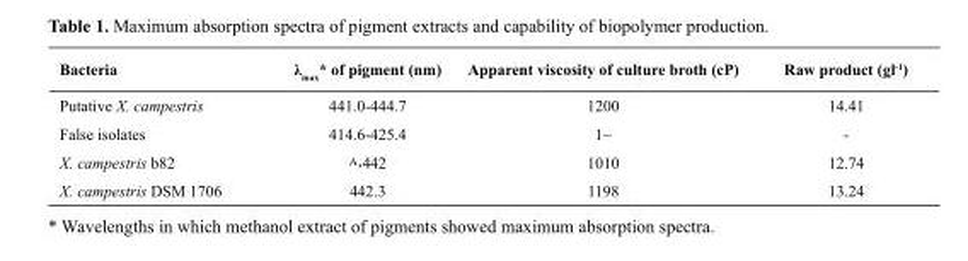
<table><thead><tr><td>Bacteria</td><td>λ<sub>max</sub>* of pigment (nm)</td><td>Apparent viscosity of culture broth (cP)</td><td>Raw product (gl<sup>-</sup>1)</td></tr></thead><tbody><tr><td>Putative X. campestris</td><td>441.0-444.7</td><td>1200</td><td>14.41</td></tr><tr><td>False isolates</td><td>414.6-425.4</td><td>1~</td><td>-</td></tr><tr><td>X. campestris b82</td><td>8.442</td><td>1010</td><td>12.74</td></tr><tr><td>X. campestris DSM 1706</td><td>442.3</td><td>1198</td><td>13.24</td></tr></tbody></table>